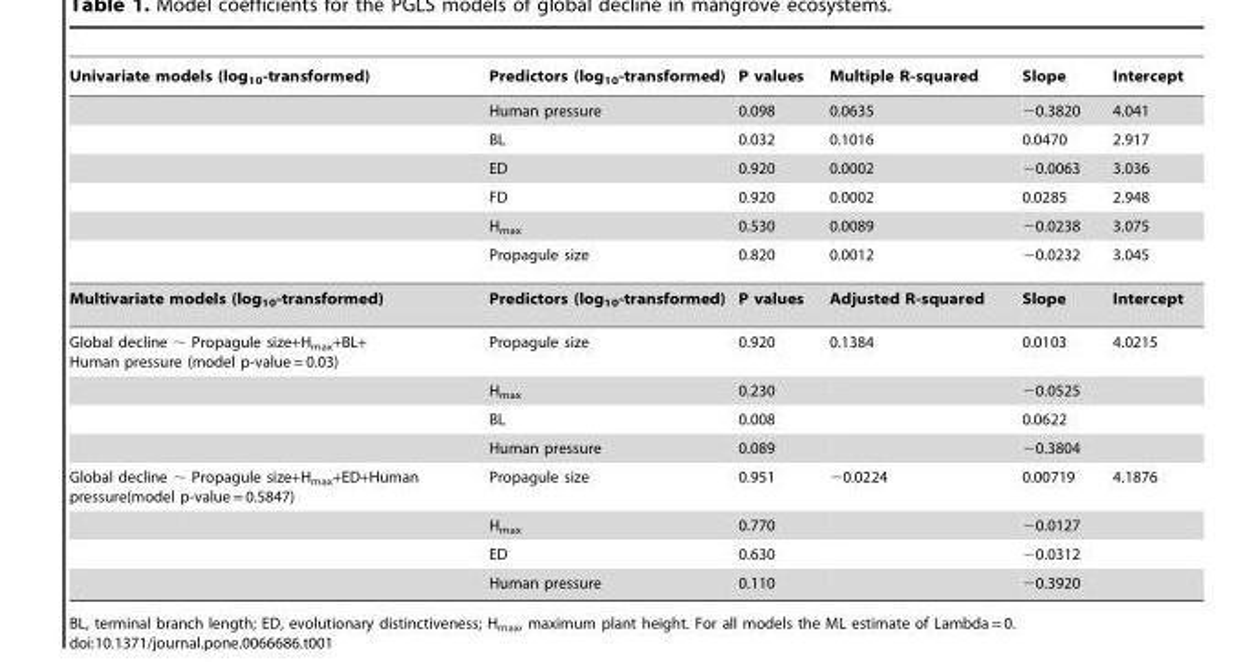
<table><thead><tr><td>Univariate models (log<sub>10</sub>-transformed)</td><td>Predictors (log<sub>10</sub>-transformed)</td><td>P values</td><td>Multiple R-squared</td><td>Slope</td><td>Intercept</td></tr></thead><tbody><tr><td></td><td>Human pressure</td><td>0.098</td><td>0.0635</td><td>−0.3820</td><td>4.041</td></tr><tr><td></td><td>BL</td><td>0.032</td><td>0.1016</td><td>0.0470</td><td>2.917</td></tr><tr><td></td><td>ED</td><td>0.920</td><td>0.0002</td><td>−0.0063</td><td>3.036</td></tr><tr><td></td><td>FD</td><td>0.920</td><td>0.0002</td><td>0.0285</td><td>2.948</td></tr><tr><td></td><td>H<sub>max</sub></td><td>0.530</td><td>0.0089</td><td>−0.0238</td><td>3.075</td></tr><tr><td></td><td>Propagule size</td><td>0.820</td><td>0.0012</td><td>−0.0232</td><td>3.045</td></tr><tr><td>Multivariate models (log<sub>10</sub>-transformed)</td><td>Predictors (log<sub>10</sub>-transformed)</td><td>P values</td><td>Adjusted R-squared</td><td>Slope</td><td>Intercept</td></tr><tr><td rowspan="4">Global decline ∼ Propagule size+H<sub>max</sub>+BL+ Human pressure (model p-value = 0.03)</td><td>Propagule size</td><td>0.920</td><td>0.1384</td><td>0.0103</td><td>4.0215</td></tr><tr><td>H<sub>max</sub></td><td>0.230</td><td></td><td>−0.0525</td><td></td></tr><tr><td>BL</td><td>0.008</td><td></td><td>0.0622</td><td></td></tr><tr><td>Human pressure</td><td>0.089</td><td></td><td>−0.3804</td><td></td></tr><tr><td rowspan="4">Global decline ∼ Propagule size+H<sub>max</sub>+ED+Human pressure(model p-value = 0.5847)</td><td>Propagule size</td><td>0.951</td><td>−0.0224</td><td>0.00719</td><td>4.1876</td></tr><tr><td>H<sub>max</sub></td><td>0.770</td><td></td><td>−0.0127</td><td></td></tr><tr><td>ED</td><td>0.630</td><td></td><td>−0.0312</td><td></td></tr><tr><td>Human pressure</td><td>0.110</td><td></td><td>−0.3920</td><td></td></tr></tbody></table>